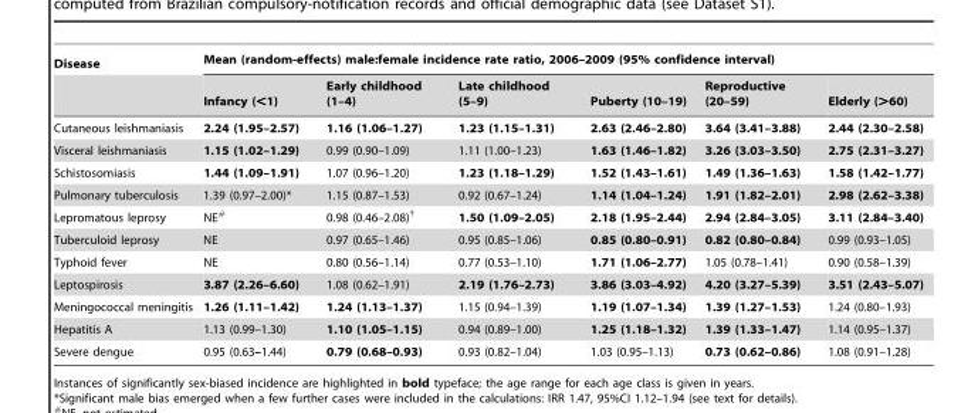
<table><thead><tr><td rowspan="2">Disease</td><td colspan="6">Mean (random-effects) male:female incidence rate ratio, 2006–2009 (95% confidence interval)</td></tr><tr><td>Infancy (&lt;1)</td><td>Early childhood (1–4)</td><td>Late childhood (5–9)</td><td>Puberty (10–19)</td><td>Reproductive (20–59)</td><td>Elderly (&gt;60)</td></tr></thead><tbody><tr><td>Cutaneous leishmaniasis</td><td>2.24 (1.95–2.57)</td><td>1.16 (1.06–1.27)</td><td>1.23 (1.15–1.31)</td><td>2.63 (2.46–2.80)</td><td>3.64 (3.41–3.88)</td><td>2.44 (2.30–2.58)</td></tr><tr><td>Visceral leishmaniasis</td><td>1.15 (1.02–1.29)</td><td>0.99 (0.90–1.09)</td><td>1.11 (1.00–1.23)</td><td>1.63 (1.46–1.82)</td><td>3.26 (3.03–3.50)</td><td>2.75 (2.31–3.27)</td></tr><tr><td>Schistosomiasis</td><td>1.44 (1.09–1.91)</td><td>1.07 (0.96–1.20)</td><td>1.23 (1.18–1.29)</td><td>1.52 (1.43–1.61)</td><td>1.49 (1.36–1.63)</td><td>1.58 (1.42–1.77)</td></tr><tr><td>Pulmonary tuberculosis</td><td>1.39 (0.97–2.00)*</td><td>1.15 (0.87–1.53)</td><td>0.92 (0.67–1.24)</td><td>1.14 (1.04–1.24)</td><td>1.91 (1.82–2.01)</td><td>2.98 (2.62–3.38)</td></tr><tr><td>Lepromatous leprosy</td><td>NE#</td><td>0.98 (0.46–2.08)†</td><td>1.50 (1.09–2.05)</td><td>2.18 (1.95–2.44)</td><td>2.94 (2.84–3.05)</td><td>3.11 (2.84–3.40)</td></tr><tr><td>Tuberculoid leprosy</td><td>NE</td><td>0.97 (0.65–1.46)</td><td>0.95 (0.85–1.06)</td><td>0.85 (0.80–0.91)</td><td>0.82 (0.80–0.84)</td><td>0.99 (0.93–1.05)</td></tr><tr><td>Typhoid fever</td><td>NE</td><td>0.80 (0.56–1.14)</td><td>0.77 (0.53–1.10)</td><td>1.71 (1.06–2.77)</td><td>1.05 (0.78–1.41)</td><td>0.90 (0.58–1.39)</td></tr><tr><td>Leptospirosis</td><td>3.87 (2.26–6.60)</td><td>1.08 (0.62–1.91)</td><td>2.19 (1.76–2.73)</td><td>3.86 (3.03–4.92)</td><td>4.20 (3.27–5.39)</td><td>3.51 (2.43–5.07)</td></tr><tr><td>Meningococcal meningitis</td><td>1.26 (1.11–1.42)</td><td>1.24 (1.13–1.37)</td><td>1.15 (0.94–1.39)</td><td>1.19 (1.07–1.34)</td><td>1.39 (1.27–1.53)</td><td>1.24 (0.80–1.93)</td></tr><tr><td>Hepatitis A</td><td>1.13 (0.99–1.30)</td><td>1.10 (1.05–1.15)</td><td>0.94 (0.89–1.00)</td><td>1.25 (1.18–1.32)</td><td>1.39 (1.33–1.47)</td><td>1.14 (0.95–1.37)</td></tr><tr><td>Severe dengue</td><td>0.95 (0.63–1.44)</td><td>0.79 (0.68–0.93)</td><td>0.93 (0.82–1.04)</td><td>1.03 (0.95–1.13)</td><td>0.73 (0.62–0.86)</td><td>1.08 (0.91–1.28)</td></tr></tbody></table>